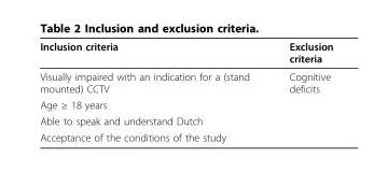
<table><thead><tr><td>Inclusion criteria</td><td>Exclusion criteria</td></tr></thead><tbody><tr><td>Visually impaired with an indication for a (stand mounted) CCTV</td><td>Cognitive deficits</td></tr><tr><td colspan="2">Age ≥ 18 years</td></tr><tr><td colspan="2">Able to speak and understand Dutch</td></tr><tr><td>Acceptance of the conditions of the study</td><td></td></tr></tbody></table>